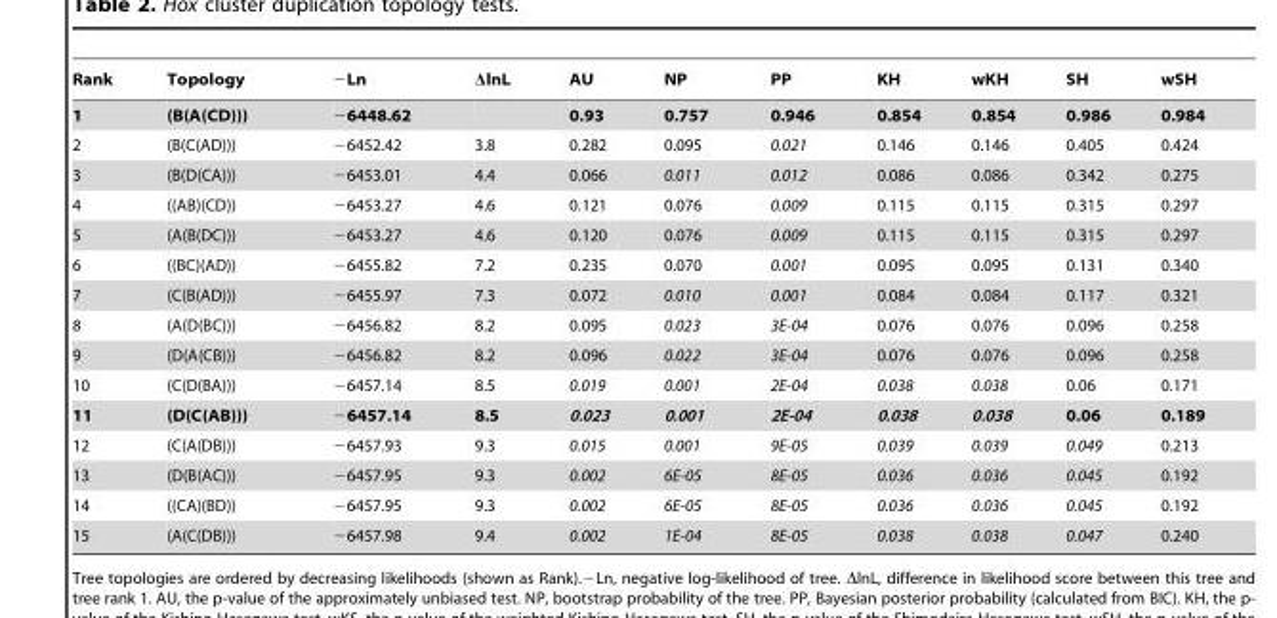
<table><thead><tr><td>Rank</td><td>Topology</td><td>−Ln</td><td>ΔlnL</td><td>AU</td><td>NP</td><td>PP</td><td>KH</td><td>wKH</td><td>SH</td><td>wSH</td></tr></thead><tbody><tr><td>1</td><td>(B(A(CD)))</td><td>−6448.62</td><td></td><td>0.93</td><td>0.757</td><td>0.946</td><td>0.854</td><td>0.854</td><td>0.986</td><td>0.984</td></tr><tr><td>2</td><td>(B(C(AD)))</td><td>−6452.42</td><td>3.8</td><td>0.282</td><td>0.095</td><td>0.021</td><td>0.146</td><td>0.146</td><td>0.405</td><td>0.424</td></tr><tr><td>3</td><td>(B(D(CA)))</td><td>−6453.01</td><td>4.4</td><td>0.066</td><td>0.011</td><td>0.012</td><td>0.086</td><td>0.086</td><td>0.342</td><td>0.275</td></tr><tr><td>4</td><td>((AB)(CD))</td><td>−6453.27</td><td>4.6</td><td>0.121</td><td>0.076</td><td>0.009</td><td>0.115</td><td>0.115</td><td>0.315</td><td>0.297</td></tr><tr><td>5</td><td>(A(B(DC)))</td><td>−6453.27</td><td>4.6</td><td>0.120</td><td>0.076</td><td>0.009</td><td>0.115</td><td>0.115</td><td>0.315</td><td>0.297</td></tr><tr><td>6</td><td>((BC)(AD))</td><td>−6455.82</td><td>7.2</td><td>0.235</td><td>0.070</td><td>0.001</td><td>0.095</td><td>0.095</td><td>0.131</td><td>0.340</td></tr><tr><td>7</td><td>(C(B(AD)))</td><td>−6455.97</td><td>7.3</td><td>0.072</td><td>0.010</td><td>0.001</td><td>0.084</td><td>0.084</td><td>0.117</td><td>0.321</td></tr><tr><td>8</td><td>(A(D(BC)))</td><td>−6456.82</td><td>8.2</td><td>0.095</td><td>0.023</td><td>3E-04</td><td>0.076</td><td>0.076</td><td>0.096</td><td>0.258</td></tr><tr><td>9</td><td>(D(A(CB)))</td><td>−6456.82</td><td>8.2</td><td>0.096</td><td>0.022</td><td>3E-04</td><td>0.076</td><td>0.076</td><td>0.096</td><td>0.258</td></tr><tr><td>10</td><td>(C(D(BA)))</td><td>−6457.14</td><td>8.5</td><td>0.019</td><td>0.001</td><td>2E-04</td><td>0.038</td><td>0.038</td><td>0.06</td><td>0.171</td></tr><tr><td>11</td><td>(D(C(AB)))</td><td>−6457.14</td><td>8.5</td><td>0.023</td><td>0.001</td><td>2E-04</td><td>0.038</td><td>0.038</td><td>0.06</td><td>0.189</td></tr><tr><td>12</td><td>(C(A(DB)))</td><td>−6457.93</td><td>9.3</td><td>0.015</td><td>0.001</td><td>9E-05</td><td>0.039</td><td>0.039</td><td>0.049</td><td>0.213</td></tr><tr><td>13</td><td>(D(B(AC)))</td><td>−6457.95</td><td>9.3</td><td>0.002</td><td>6E-05</td><td>8E-05</td><td>0.036</td><td>0.036</td><td>0.045</td><td>0.192</td></tr><tr><td>14</td><td>((CA)(BD))</td><td>−6457.95</td><td>9.3</td><td>0.002</td><td>6E-05</td><td>8E-05</td><td>0.036</td><td>0.036</td><td>0.045</td><td>0.192</td></tr><tr><td>15</td><td>(A(C(DB)))</td><td>−6457.98</td><td>9.4</td><td>0.002</td><td>1E-04</td><td>8E-05</td><td>0.038</td><td>0.038</td><td>0.047</td><td>0.240</td></tr></tbody></table>